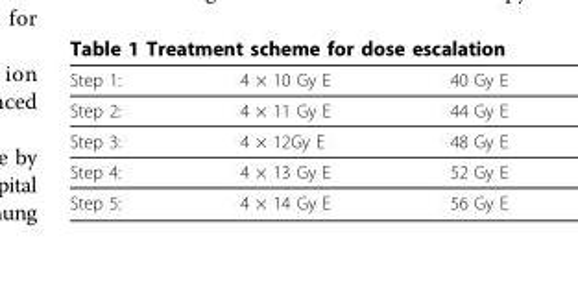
<table><thead><tr><td>Step 1:</td><td>4 × 10 Gy E</td><td>40 Gy E</td></tr></thead><tbody><tr><td>Step 2:</td><td>4 × 11 Gy E</td><td>44 Gy E</td></tr><tr><td>Step 3:</td><td>4 × 12Gy E</td><td>48 Gy E</td></tr><tr><td>Step 4:</td><td>4 × 13 Gy E</td><td>52 Gy E</td></tr><tr><td>Step 5:</td><td>4 × 14 Gy E</td><td>56 Gy E</td></tr></tbody></table>